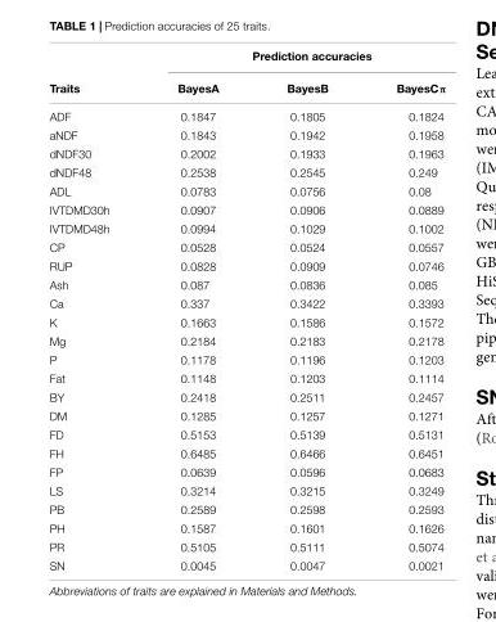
<table><thead><tr><td rowspan="2">Traits</td><td colspan="3">Prediction accuracies</td></tr><tr><td>BayesA</td><td>BayesB</td><td>BayesCπ</td></tr></thead><tbody><tr><td>ADF</td><td>0.1847</td><td>0.1805</td><td>0.1824</td></tr><tr><td>aNDF</td><td>0.1843</td><td>0.1942</td><td>0.1958</td></tr><tr><td>dNDF30</td><td>0.2002</td><td>0.1933</td><td>0.1963</td></tr><tr><td>dNDF48</td><td>0.2538</td><td>0.2545</td><td>0.249</td></tr><tr><td>ADL</td><td>0.0783</td><td>0.0756</td><td>0.08</td></tr><tr><td>IVTDMD30h</td><td>0.0907</td><td>0.0906</td><td>0.0889</td></tr><tr><td>IVTDMD48h</td><td>0.0994</td><td>0.1029</td><td>0.1002</td></tr><tr><td>CP</td><td>0.0528</td><td>0.0524</td><td>0.0557</td></tr><tr><td>RUP</td><td>0.0828</td><td>0.0909</td><td>0.0746</td></tr><tr><td>Ash</td><td>0.087</td><td>0.0836</td><td>0.085</td></tr><tr><td>Ca</td><td>0.337</td><td>0.3422</td><td>0.3393</td></tr><tr><td>K</td><td>0.1663</td><td>0.1586</td><td>0.1572</td></tr><tr><td>Mg</td><td>0.2184</td><td>0.2183</td><td>0.2178</td></tr><tr><td>P</td><td>0.1178</td><td>0.1196</td><td>0.1203</td></tr><tr><td>Fat</td><td>0.1148</td><td>0.1203</td><td>0.1114</td></tr><tr><td>BY</td><td>0.2418</td><td>0.2511</td><td>0.2457</td></tr><tr><td>DM</td><td>0.1285</td><td>0.1257</td><td>0.1271</td></tr><tr><td>FD</td><td>0.5153</td><td>0.5139</td><td>0.5131</td></tr><tr><td>FH</td><td>0.6485</td><td>0.6466</td><td>0.6451</td></tr><tr><td>FP</td><td>0.0639</td><td>0.0596</td><td>0.0683</td></tr><tr><td>LS</td><td>0.3214</td><td>0.3215</td><td>0.3249</td></tr><tr><td>PB</td><td>0.2589</td><td>0.2598</td><td>0.2593</td></tr><tr><td>PH</td><td>0.1587</td><td>0.1601</td><td>0.1626</td></tr><tr><td>PR</td><td>0.5105</td><td>0.5111</td><td>0.5074</td></tr><tr><td>SN</td><td>0.0045</td><td>0.0047</td><td>0.0021</td></tr></tbody></table>